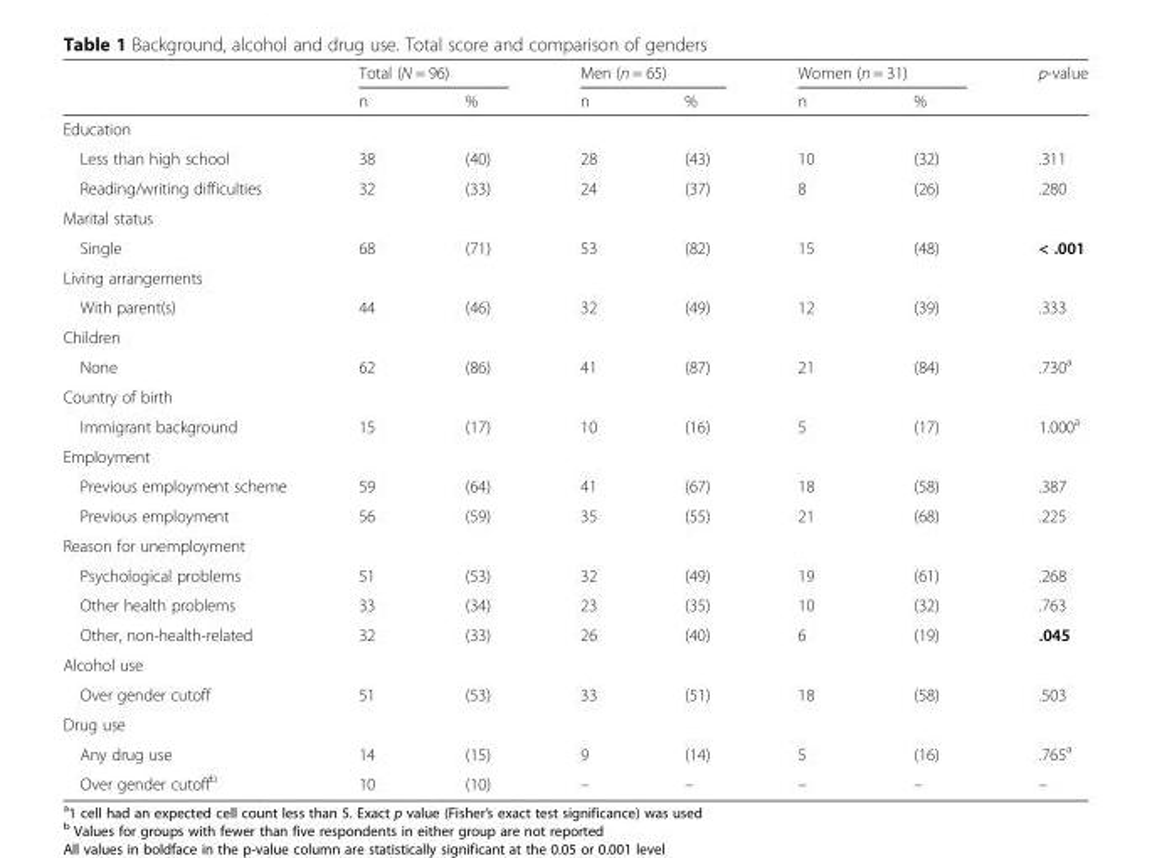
<table><thead><tr><td rowspan="2"></td><td colspan="2">Total (N = 96)</td><td colspan="2">Men (n = 65)</td><td colspan="2">Women (n = 31)</td><td rowspan="2">p-value</td></tr><tr><td>n</td><td>%</td><td>n</td><td>%</td><td>n</td><td>%</td></tr></thead><tbody><tr><td colspan="8">Education</td></tr><tr><td>Less than high school</td><td>38</td><td>(40)</td><td>28</td><td>(43)</td><td>10</td><td>(32)</td><td>.311</td></tr><tr><td>Reading/writing difficulties</td><td>32</td><td>(33)</td><td>24</td><td>(37)</td><td>8</td><td>(26)</td><td>.280</td></tr><tr><td colspan="8">Marital status</td></tr><tr><td>Single</td><td>68</td><td>(71)</td><td>53</td><td>(82)</td><td>15</td><td>(48)</td><td>&lt; .001</td></tr><tr><td colspan="8">Living arrangements</td></tr><tr><td>With parent(s)</td><td>44</td><td>(46)</td><td>32</td><td>(49)</td><td>12</td><td>(39)</td><td>.333</td></tr><tr><td colspan="8">Children</td></tr><tr><td>None</td><td>62</td><td>(86)</td><td>41</td><td>(87)</td><td>21</td><td>(84)</td><td>.730<sup>a</sup></td></tr><tr><td colspan="8">Country of birth</td></tr><tr><td>Immigrant background</td><td>15</td><td>(17)</td><td>10</td><td>(16)</td><td>5</td><td>(17)</td><td>1.000<sup>a</sup></td></tr><tr><td colspan="8">Employment</td></tr><tr><td>Previous employment scheme</td><td>59</td><td>(64)</td><td>41</td><td>(67)</td><td>18</td><td>(58)</td><td>.387</td></tr><tr><td>Previous employment</td><td>56</td><td>(59)</td><td>35</td><td>(55)</td><td>21</td><td>(68)</td><td>.225</td></tr><tr><td colspan="8">Reason for unemployment</td></tr><tr><td>Psychological problems</td><td>51</td><td>(53)</td><td>32</td><td>(49)</td><td>19</td><td>(61)</td><td>.268</td></tr><tr><td>Other health problems</td><td>33</td><td>(34)</td><td>23</td><td>(35)</td><td>10</td><td>(32)</td><td>.763</td></tr><tr><td>Other, non-health-related</td><td>32</td><td>(33)</td><td>26</td><td>(40)</td><td>6</td><td>(19)</td><td>.045</td></tr><tr><td colspan="8">Alcohol use</td></tr><tr><td>Over gender cutoff</td><td>51</td><td>(53)</td><td>33</td><td>(51)</td><td>18</td><td>(58)</td><td>.503</td></tr><tr><td colspan="8">Drug use</td></tr><tr><td>Any drug use</td><td>14</td><td>(15)</td><td>9</td><td>(14)</td><td>5</td><td>(16)</td><td>.765<sup>a</sup></td></tr><tr><td>Over gender cutoff<sup>b</sup></td><td>10</td><td>(10)</td><td>–</td><td>–</td><td>–</td><td>–</td><td>–</td></tr></tbody></table>